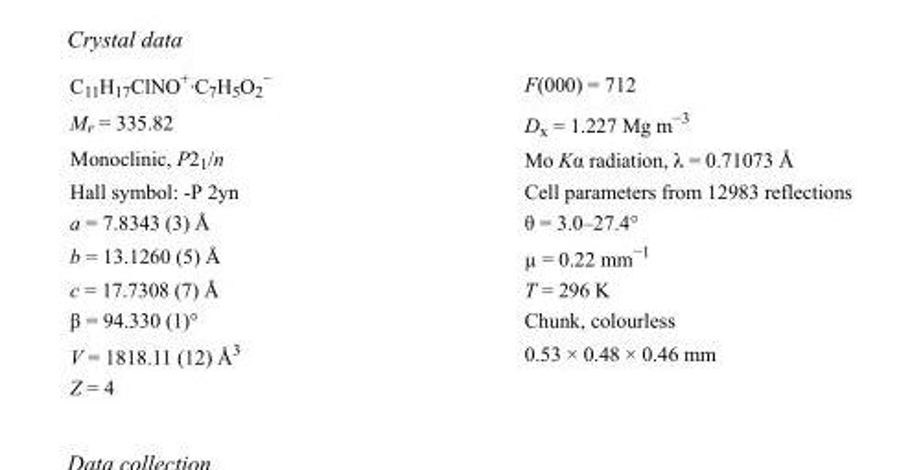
<table><tbody><tr><td>C<sub>11</sub>H<sub>17</sub>ClNO<sup>+</sup>·C<sub>7</sub>H<sub>5</sub>O<sub>2</sub> <sup>−</sup></td><td>F(000) = 712</td></tr><tr><td>M<sub>r</sub> = 335.82</td><td>D<sub>x</sub> = 1.227 Mg m<sup>−3</sup></td></tr><tr><td>Monoclinic, P2<sub>1</sub>/n</td><td>Mo Kα radiation, λ = 0.71073 Å</td></tr><tr><td>Hall symbol: -P 2yn</td><td>Cell parameters from 12983 reflections</td></tr><tr><td>a = 7.8343 (3) Å</td><td>θ = 3.0–27.4°</td></tr><tr><td>b = 13.1260 (5) Å</td><td>µ = 0.22 mm<sup>−1</sup></td></tr><tr><td>c = 17.7308 (7) Å</td><td>T = 296 K</td></tr><tr><td>β = 94.330 (1)°</td><td>Chunk, colourless</td></tr><tr><td>V = 1818.11 (12) Å<sup>3</sup></td><td>0.53 × 0.48 × 0.46 mm</td></tr><tr><td>Z = 4</td><td></td></tr></tbody></table>